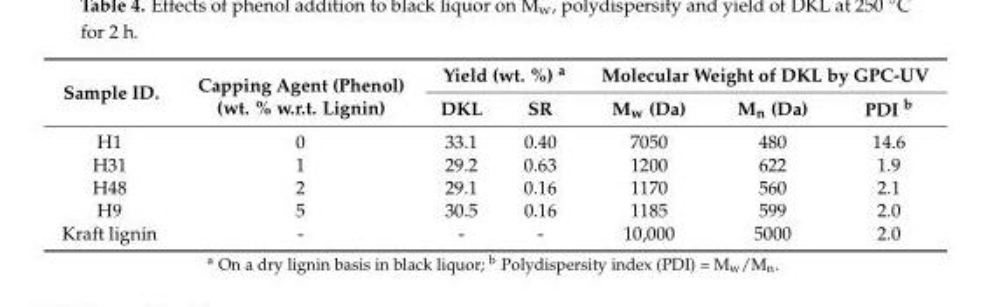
<table><thead><tr><td rowspan="2">Sample ID.</td><td rowspan="2">Capping Agent (Phenol) (wt. % w.r.t. Lignin)</td><td colspan="2">Yield (wt. %) <sup>a</sup></td><td colspan="3">Molecular Weight of DKL by GPC-UV</td></tr><tr><td>DKL</td><td>SR</td><td>M<sub>w</sub> (Da)</td><td>M<sub>n</sub> (Da)</td><td>PDI <sup>b</sup></td></tr></thead><tbody><tr><td>H1</td><td>0</td><td>33.1</td><td>0.40</td><td>7050</td><td>480</td><td>14.6</td></tr><tr><td>H31</td><td>1</td><td>29.2</td><td>0.63</td><td>1200</td><td>622</td><td>1.9</td></tr><tr><td>H48</td><td>2</td><td>29.1</td><td>0.16</td><td>1170</td><td>560</td><td>2.1</td></tr><tr><td>H9</td><td>5</td><td>30.5</td><td>0.16</td><td>1185</td><td>599</td><td>2.0</td></tr><tr><td>Kraft lignin</td><td>-</td><td>-</td><td>-</td><td>10,000</td><td>5000</td><td>2.0</td></tr></tbody></table>